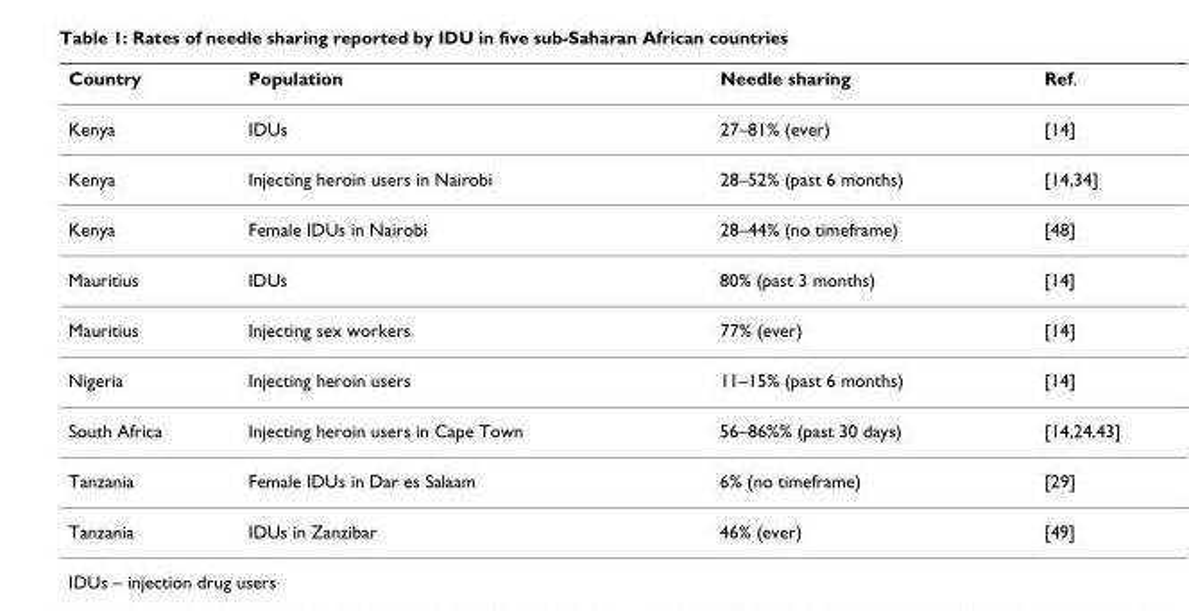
<table><thead><tr><td>Country</td><td>Population</td><td>Needle sharing</td><td>Ref.</td></tr></thead><tbody><tr><td>Kenya</td><td>IDUs</td><td>27–81% (ever)</td><td>[14]</td></tr><tr><td>Kenya</td><td>Injecting heroin users in Nairobi</td><td>28–52% (past 6 months)</td><td>[14,34]</td></tr><tr><td>Kenya</td><td>Female IDUs in Nairobi</td><td>28–44% (no timeframe)</td><td>[48]</td></tr><tr><td>Mauritius</td><td>IDUs</td><td>80% (past 3 months)</td><td>[14]</td></tr><tr><td>Mauritius</td><td>Injecting sex workers</td><td>77% (ever)</td><td>[14]</td></tr><tr><td>Nigeria</td><td>Injecting heroin users</td><td>11–15% (past 6 months)</td><td>[14]</td></tr><tr><td>South Africa</td><td>Injecting heroin users in Cape Town</td><td>56–86%% (past 30 days)</td><td>[14,24,43]</td></tr><tr><td>Tanzania</td><td>Female IDUs in Dar es Salaam</td><td>6% (no timeframe)</td><td>[29]</td></tr><tr><td>Tanzania</td><td>IDUs in Zanzibar</td><td>46% (ever)</td><td>[49]</td></tr></tbody></table>